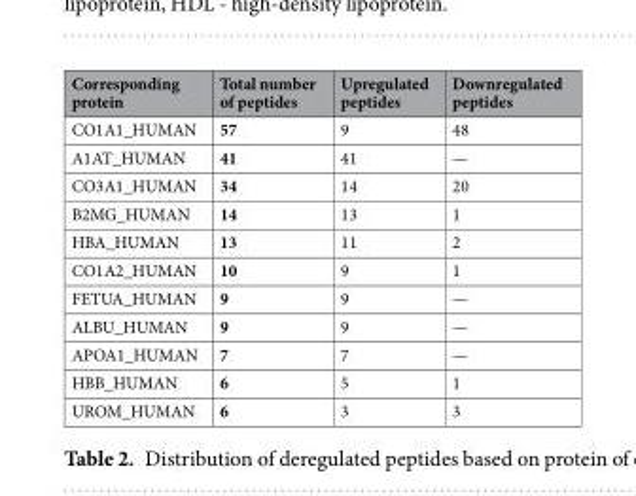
<table><thead><tr><td>Corresponding protein</td><td>Total number of peptides</td><td>Upregulated peptides</td><td>Downregulated peptides</td></tr></thead><tbody><tr><td>CO1A1_HUMAN</td><td>57</td><td>9</td><td>48</td></tr><tr><td>A1AT_HUMAN</td><td>41</td><td>41</td><td>—</td></tr><tr><td>CO3A1_HUMAN</td><td>34</td><td>14</td><td>20</td></tr><tr><td>B2MG_HUMAN</td><td>14</td><td>13</td><td>1</td></tr><tr><td>HBA_HUMAN</td><td>13</td><td>11</td><td>2</td></tr><tr><td>CO1A2_HUMAN</td><td>10</td><td>9</td><td>1</td></tr><tr><td>FETUA_HUMAN</td><td>9</td><td>9</td><td>—</td></tr><tr><td>ALBU_HUMAN</td><td>9</td><td>9</td><td>—</td></tr><tr><td>APOA1_HUMAN</td><td>7</td><td>7</td><td>—</td></tr><tr><td>HBB_HUMAN</td><td>6</td><td>5</td><td>1</td></tr><tr><td>UROM_HUMAN</td><td>6</td><td>3</td><td>3</td></tr></tbody></table>